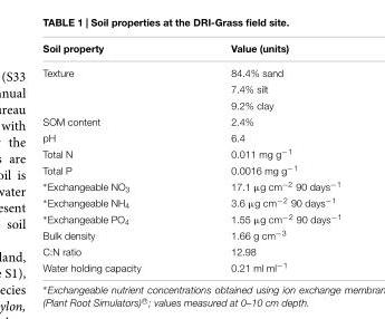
<table><thead><tr><td>Soil property</td><td>Value (units)</td></tr></thead><tbody><tr><td rowspan="3">Texture</td><td>84.4% sand</td></tr><tr><td>7.4% silt</td></tr><tr><td>9.2% clay</td></tr><tr><td>SOM content</td><td>2.4%</td></tr><tr><td>pH</td><td>6.4</td></tr><tr><td>Total N</td><td>0.011 mg g<sup>−1</sup></td></tr><tr><td>Total P</td><td>0.0016 mg g<sup>−1</sup></td></tr><tr><td>∗Exchangeable NO<sub>3</sub></td><td>17.1 µg cm<sup>−2</sup> 90 days<sup>−1</sup></td></tr><tr><td>∗Exchangeable NH<sub>4</sub></td><td>3.6 µg cm<sup>−2</sup> 90 days<sup>−1</sup></td></tr><tr><td>∗Exchangeable PO<sub>4</sub></td><td>1.55 µg cm<sup>−2</sup> 90 days<sup>−1</sup></td></tr><tr><td>Bulk density</td><td>1.66 g cm<sup>−3</sup></td></tr><tr><td>C:N ratio</td><td>12.98</td></tr><tr><td>Water holding capacity</td><td>0.21 ml ml<sup>−1</sup></td></tr></tbody></table>